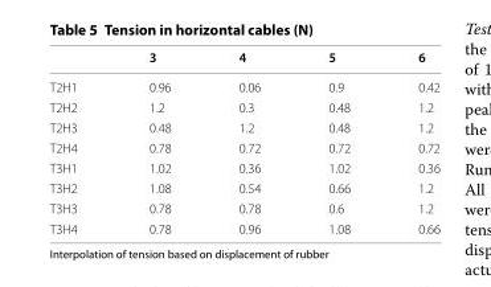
<table><thead><tr><td></td><td>3</td><td>4</td><td>5</td><td>6</td></tr></thead><tbody><tr><td>T2H1</td><td>0.96</td><td>0.06</td><td>0.9</td><td>0.42</td></tr><tr><td>T2H2</td><td>1.2</td><td>0.3</td><td>0.48</td><td>1.2</td></tr><tr><td>T2H3</td><td>0.48</td><td>1.2</td><td>0.48</td><td>1.2</td></tr><tr><td>T2H4</td><td>0.78</td><td>0.72</td><td>0.72</td><td>0.72</td></tr><tr><td>T3H1</td><td>1.02</td><td>0.36</td><td>1.02</td><td>0.36</td></tr><tr><td>T3H2</td><td>1.08</td><td>0.54</td><td>0.66</td><td>1.2</td></tr><tr><td>T3H3</td><td>0.78</td><td>0.78</td><td>0.6</td><td>1.2</td></tr><tr><td>T3H4</td><td>0.78</td><td>0.96</td><td>1.08</td><td>0.66</td></tr></tbody></table>